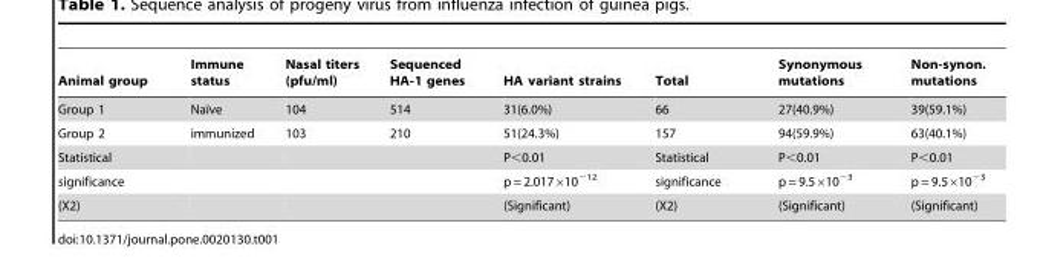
<table><thead><tr><td>Animal group</td><td>Immune status</td><td>Nasal titers (pfu/ml)</td><td>Sequenced HA-1 genes</td><td>HA variant strains</td><td>Total</td><td>Synonymous mutations</td><td>Non-synon. mutations</td></tr></thead><tbody><tr><td>Group 1</td><td>Naı¨ve</td><td>104</td><td>514</td><td>31(6.0%)</td><td>66</td><td>27(40.9%)</td><td>39(59.1%)</td></tr><tr><td>Group 2</td><td>immunized</td><td>103</td><td>210</td><td>51(24.3%)</td><td>157</td><td>94(59.9%)</td><td>63(40.1%)</td></tr><tr><td>Statistical</td><td></td><td></td><td></td><td>P&lt;0.01</td><td>Statistical</td><td>P&lt;0.01</td><td>P&lt;0.01</td></tr><tr><td colspan="2">significance</td><td></td><td></td><td>p = 2.017×10<sup>−12</sup></td><td>significance</td><td>p = 9.5×10<sup>−3</sup></td><td>p = 9.5×10<sup>−3</sup></td></tr><tr><td>(X2)</td><td></td><td></td><td></td><td>(Significant)</td><td>(X2)</td><td>(Significant)</td><td>(Significant)</td></tr></tbody></table>